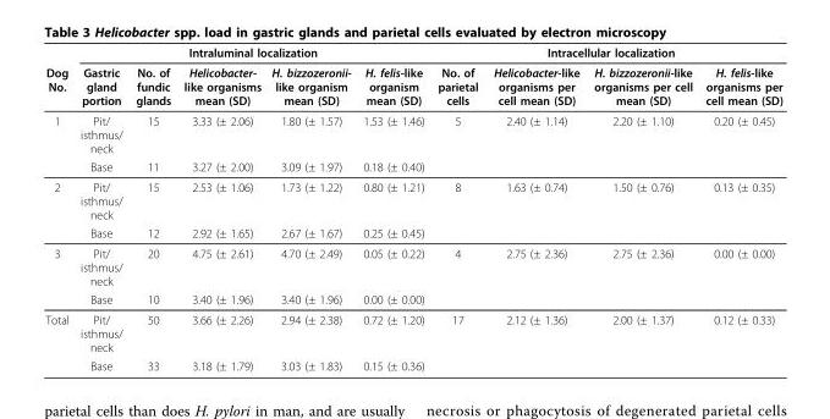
<table><thead><tr><td rowspan="2">Dog No.</td><td colspan="5">Intraluminal localization</td><td colspan="4">Intracellular localization</td></tr><tr><td>Gastric gland portion</td><td>No. of fundic glands</td><td>Helicobacter- like organisms mean (SD)</td><td>H. bizzozeronii- like organism mean (SD)</td><td>H. felis-like organism mean (SD)</td><td>No. of parietal cells</td><td>Helicobacter-like organisms per cell mean (SD)</td><td>H. bizzozeronii-like organisms per cell mean (SD)</td><td>H. felis-like organisms per cell mean (SD)</td></tr></thead><tbody><tr><td rowspan="2">1</td><td>Pit/ isthmus/ neck</td><td>15</td><td>3.33 (± 2.06)</td><td>1.80 (± 1.57)</td><td>1.53 (± 1.46)</td><td>5</td><td>2.40 (± 1.14)</td><td>2.20 (± 1.10)</td><td>0.20 (± 0.45)</td></tr><tr><td>Base</td><td>11</td><td>3.27 (± 2.00)</td><td>3.09 (± 1.97)</td><td>0.18 (± 0.40)</td><td></td><td></td><td></td><td></td></tr><tr><td rowspan="2">2</td><td>Pit/ isthmus/ neck</td><td>15</td><td>2.53 (± 1.06)</td><td>1.73 (± 1.22)</td><td>0.80 (± 1.21)</td><td>8</td><td>1.63 (± 0.74)</td><td>1.50 (± 0.76)</td><td>0.13 (± 0.35)</td></tr><tr><td>Base</td><td>12</td><td>2.92 (± 1.65)</td><td>2.67 (± 1.67)</td><td>0.25 (± 0.45)</td><td></td><td></td><td></td><td></td></tr><tr><td rowspan="2">3</td><td>Pit/ isthmus/ neck</td><td>20</td><td>4.75 (± 2.61)</td><td>4.70 (± 2.49)</td><td>0.05 (± 0.22)</td><td>4</td><td>2.75 (± 2.36)</td><td>2.75 (± 2.36)</td><td>0.00 (± 0.00)</td></tr><tr><td>Base</td><td>10</td><td>3.40 (± 1.96)</td><td>3.40 (± 1.96)</td><td>0.00 (± 0.00)</td><td></td><td></td><td></td><td></td></tr><tr><td rowspan="2">Total</td><td>Pit/ isthmus/ neck</td><td>50</td><td>3.66 (± 2.26)</td><td>2.94 (± 2.38)</td><td>0.72 (± 1.20)</td><td>17</td><td>2.12 (± 1.36)</td><td>2.00 (± 1.37)</td><td>0.12 (± 0.33)</td></tr><tr><td>Base</td><td>33</td><td>3.18 (± 1.79)</td><td>3.03 (± 1.83)</td><td>0.15 (± 0.36)</td><td></td><td></td><td></td><td></td></tr></tbody></table>